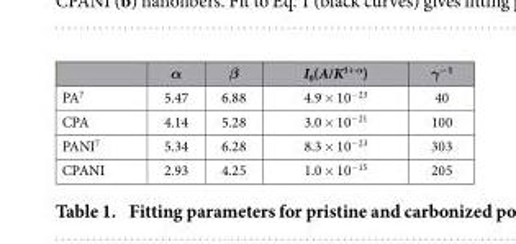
<table><thead><tr><td></td><td>α</td><td>β</td><td>I<sub>0</sub>(A/K<sup>1+α</sup>)</td><td>γ<sup>−1</sup></td></tr></thead><tbody><tr><td>PA<sup>7</sup></td><td>5.47</td><td>6.88</td><td>4.9 × 10<sup>−23</sup></td><td>40</td></tr><tr><td>CPA</td><td>4.14</td><td>5.28</td><td>3.0 × 10<sup>−21</sup></td><td>100</td></tr><tr><td>PANI<sup>7</sup></td><td>5.34</td><td>6.28</td><td>8.3 × 10<sup>−23</sup></td><td>303</td></tr><tr><td>CPANI</td><td>2.93</td><td>4.25</td><td>1.0 × 10<sup>−15</sup></td><td>205</td></tr></tbody></table>